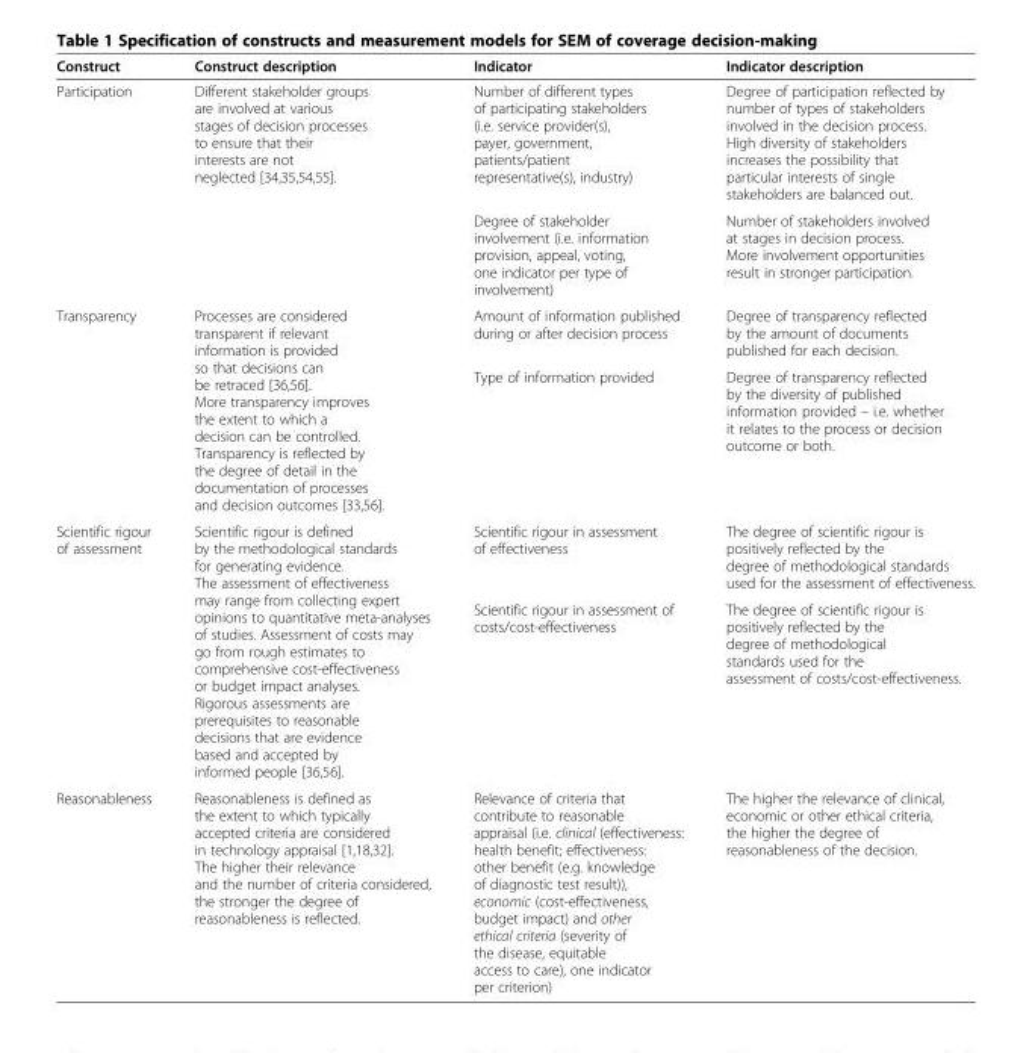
<table><thead><tr><td>Construct</td><td>Construct description</td><td>Indicator</td><td>Indicator description</td></tr></thead><tbody><tr><td rowspan="2">Participation</td><td rowspan="2">Different stakeholder groups are involved at various stages of decision processes to ensure that their interests are not neglected [34,35,54,55].</td><td>Number of different types of participating stakeholders (i.e. service provider(s), payer, government, patients/patient representative(s), industry)</td><td>Degree of participation reflected by number of types of stakeholders involved in the decision process. High diversity of stakeholders increases the possibility that particular interests of single stakeholders are balanced out.</td></tr><tr><td>Degree of stakeholder involvement (i.e. information provision, appeal, voting, one indicator per type of involvement)</td><td>Number of stakeholders involved at stages in decision process. More involvement opportunities result in stronger participation.</td></tr><tr><td rowspan="2">Transparency</td><td rowspan="2">Processes are considered transparent if relevant information is provided so that decisions can be retraced [36,56]. More transparency improves the extent to which a decision can be controlled. Transparency is reflected by the degree of detail in the documentation of processes and decision outcomes [33,56].</td><td>Amount of information published during or after decision process</td><td>Degree of transparency reflected by the amount of documents published for each decision.</td></tr><tr><td>Type of information provided</td><td>Degree of transparency reflected by the diversity of published information provided – i.e. whether it relates to the process or decision outcome or both.</td></tr><tr><td rowspan="2">Scientific rigour of assessment</td><td rowspan="2">Scientific rigour is defined by the methodological standards for generating evidence. The assessment of effectiveness may range from collecting expert opinions to quantitative meta-analyses of studies. Assessment of costs may go from rough estimates to comprehensive cost-effectiveness or budget impact analyses. Rigorous assessments are prerequisites to reasonable decisions that are evidence based and accepted by informed people [36,56].</td><td>Scientific rigour in assessment of effectiveness</td><td>The degree of scientific rigour is positively reflected by the degree of methodological standards used for the assessment of effectiveness.</td></tr><tr><td>Scientific rigour in assessment of costs/cost-effectiveness</td><td>The degree of scientific rigour is positively reflected by the degree of methodological standards used for the assessment of costs/cost-effectiveness.</td></tr><tr><td>Reasonableness</td><td>Reasonableness is defined as the extent to which typically accepted criteria are considered in technology appraisal [1,18,32]. The higher their relevance and the number of criteria considered, the stronger the degree of reasonableness is reflected.</td><td>Relevance of criteria that contribute to reasonable appraisal (i.e. clinical (effectiveness: health benefit; effectiveness: other benefit (e.g. knowledge of diagnostic test result)), economic (cost-effectiveness, budget impact) and other ethical criteria (severity of the disease, equitable access to care), one indicator per criterion)</td><td>The higher the relevance of clinical, economic or other ethical criteria, the higher the degree of reasonableness of the decision.</td></tr></tbody></table>